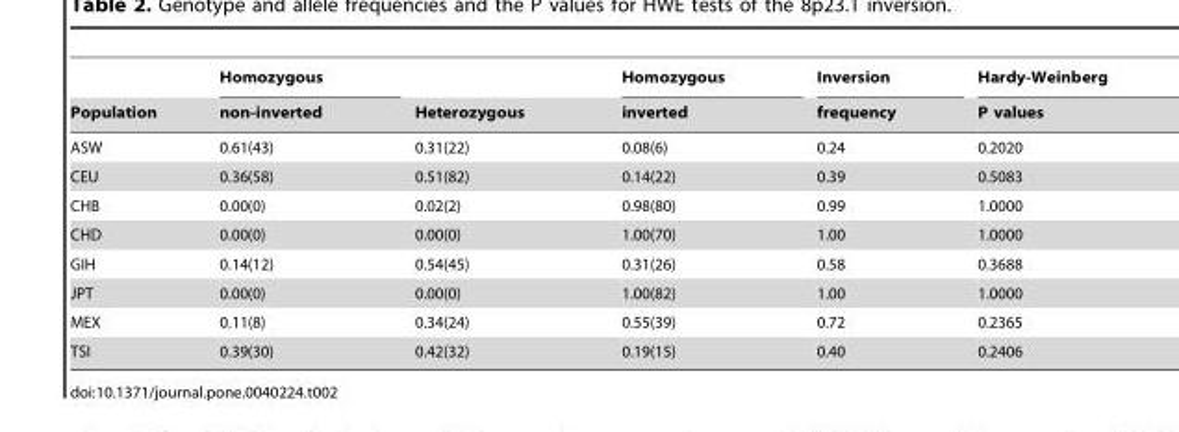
<table><thead><tr><td rowspan="2">Population</td><td rowspan="2">Homozygous non-inverted</td><td rowspan="2">Heterozygous</td><td rowspan="2">Homozygous inverted</td><td rowspan="2">Inversion frequency</td><td rowspan="2">Hardy-Weinberg P values</td></tr><tr></tr></thead><tbody><tr><td>ASW</td><td>0.61(43)</td><td>0.31(22)</td><td>0.08(6)</td><td>0.24</td><td>0.2020</td></tr><tr><td>CEU</td><td>0.36(58)</td><td>0.51(82)</td><td>0.14(22)</td><td>0.39</td><td>0.5083</td></tr><tr><td>CHB</td><td>0.00(0)</td><td>0.02(2)</td><td>0.98(80)</td><td>0.99</td><td>1.0000</td></tr><tr><td>CHD</td><td>0.00(0)</td><td>0.00(0)</td><td>1.00(70)</td><td>1.00</td><td>1.0000</td></tr><tr><td>GIH</td><td>0.14(12)</td><td>0.54(45)</td><td>0.31(26)</td><td>0.58</td><td>0.3688</td></tr><tr><td>JPT</td><td>0.00(0)</td><td>0.00(0)</td><td>1.00(82)</td><td>1.00</td><td>1.0000</td></tr><tr><td>MEX</td><td>0.11(8)</td><td>0.34(24)</td><td>0.55(39)</td><td>0.72</td><td>0.2365</td></tr><tr><td>TSI</td><td>0.39(30)</td><td>0.42(32)</td><td>0.19(15)</td><td>0.40</td><td>0.2406</td></tr></tbody></table>